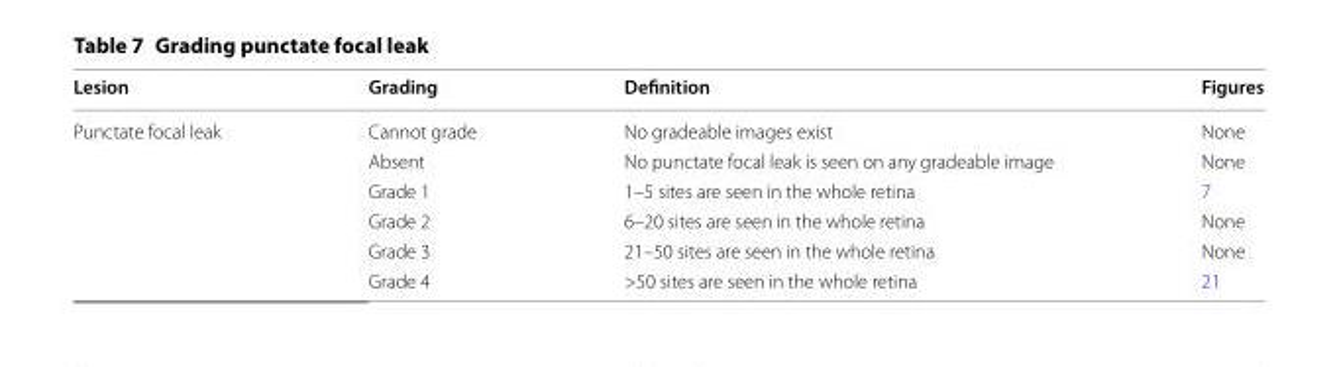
<table><thead><tr><td>Lesion</td><td>Grading</td><td>Definition</td><td>Figures</td></tr></thead><tbody><tr><td rowspan="6">Punctate focal leak</td><td>Cannot grade</td><td>No gradeable images exist</td><td>None</td></tr><tr><td>Absent</td><td>No punctate focal leak is seen on any gradeable image</td><td>None</td></tr><tr><td>Grade 1</td><td>1–5 sites are seen in the whole retina</td><td>7</td></tr><tr><td>Grade 2</td><td>6–20 sites are seen in the whole retina</td><td>None</td></tr><tr><td>Grade 3</td><td>21–50 sites are seen in the whole retina</td><td>None</td></tr><tr><td>Grade 4</td><td>&gt;50 sites are seen in the whole retina</td><td>21</td></tr></tbody></table>